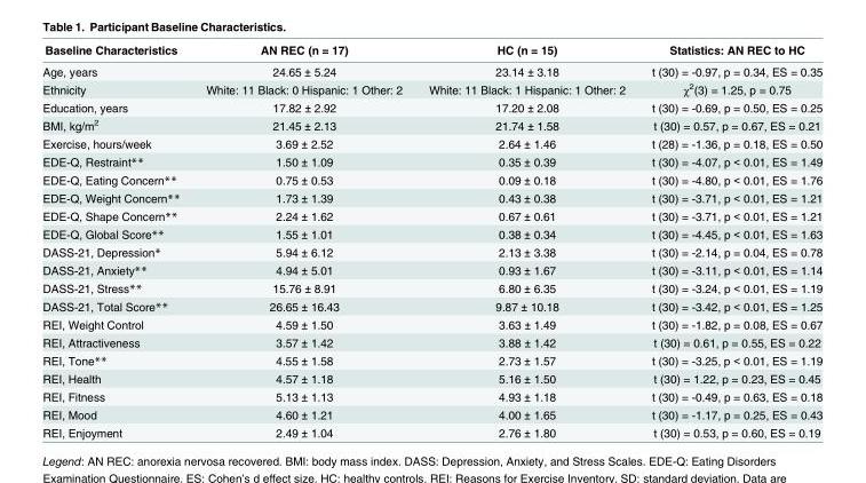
<table><thead><tr><td>Baseline Characteristics</td><td>AN REC (n = 17)</td><td>HC (n = 15)</td><td>Statistics: AN REC to HC</td></tr></thead><tbody><tr><td>Age, years</td><td>24.65 ± 5.24</td><td>23.14 ± 3.18</td><td>t (30) = -0.97, p = 0.34, ES = 0.35</td></tr><tr><td>Ethnicity</td><td>White: 11 Black: 0 Hispanic: 1 Other: 2</td><td>White: 11 Black: 1 Hispanic: 1 Other: 2</td><td>χ<sup>2</sup>(3) = 1.25, p = 0.75</td></tr><tr><td>Education, years</td><td>17.82 ± 2.92</td><td>17.20 ± 2.08</td><td>t (30) = -0.69, p = 0.50, ES = 0.25</td></tr><tr><td>BMI, kg/m<sup>2</sup></td><td>21.45 ± 2.13</td><td>21.74 ± 1.58</td><td>t (30) = 0.57, p = 0.67, ES = 0.21</td></tr><tr><td>Exercise, hours/week</td><td>3.69 ± 2.52</td><td>2.64 ± 1.46</td><td>t (28) = -1.36, p = 0.18, ES = 0.50</td></tr><tr><td>EDE-Q, Restraint**</td><td>1.50 ± 1.09</td><td>0.35 ± 0.39</td><td>t (30) = -4.07, p &lt; 0.01, ES = 1.49</td></tr><tr><td>EDE-Q, Eating Concern**</td><td>0.75 ± 0.53</td><td>0.09 ± 0.18</td><td>t (30) = -4.80, p &lt; 0.01, ES = 1.76</td></tr><tr><td>EDE-Q, Weight Concern**</td><td>1.73 ± 1.39</td><td>0.43 ± 0.38</td><td>t (30) = -3.71, p &lt; 0.01, ES = 1.21</td></tr><tr><td>EDE-Q, Shape Concern**</td><td>2.24 ± 1.62</td><td>0.67 ± 0.61</td><td>t (30) = -3.71, p &lt; 0.01, ES = 1.21</td></tr><tr><td>EDE-Q, Global Score**</td><td>1.55 ± 1.01</td><td>0.38 ± 0.34</td><td>t (30) = -4.45, p &lt; 0.01, ES = 1.63</td></tr><tr><td>DASS-21, Depression*</td><td>5.94 ± 6.12</td><td>2.13 ± 3.38</td><td>t (30) = -2.14, p = 0.04, ES = 0.78</td></tr><tr><td>DASS-21, Anxiety**</td><td>4.94 ± 5.01</td><td>0.93 ± 1.67</td><td>t (30) = -3.11, p &lt; 0.01, ES = 1.14</td></tr><tr><td>DASS-21, Stress**</td><td>15.76 ± 8.91</td><td>6.80 ± 6.35</td><td>t (30) = -3.24, p &lt; 0.01, ES = 1.19</td></tr><tr><td>DASS-21, Total Score**</td><td>26.65 ± 16.43</td><td>9.87 ± 10.18</td><td>t (30) = -3.42, p &lt; 0.01, ES = 1.25</td></tr><tr><td>REI, Weight Control</td><td>4.59 ± 1.50</td><td>3.63 ± 1.49</td><td>t (30) = -1.82, p = 0.08, ES = 0.67</td></tr><tr><td>REI, Attractiveness</td><td>3.57 ± 1.42</td><td>3.88 ± 1.42</td><td>t (30) = 0.61, p = 0.55, ES = 0.22</td></tr><tr><td>REI, Tone**</td><td>4.55 ± 1.58</td><td>2.73 ± 1.57</td><td>t (30) = -3.25, p &lt; 0.01, ES = 1.19</td></tr><tr><td>REI, Health</td><td>4.57 ± 1.18</td><td>5.16 ± 1.50</td><td>t (30) = 1.22, p = 0.23, ES = 0.45</td></tr><tr><td>REI, Fitness</td><td>5.13 ± 1.13</td><td>4.93 ± 1.18</td><td>t (30) = -0.49, p = 0.63, ES = 0.18</td></tr><tr><td>REI, Mood</td><td>4.60 ± 1.21</td><td>4.00 ± 1.65</td><td>t (30) = -1.17, p = 0.25, ES = 0.43</td></tr><tr><td>REI, Enjoyment</td><td>2.49 ± 1.04</td><td>2.76 ± 1.80</td><td>t (30) = 0.53, p = 0.60, ES = 0.19</td></tr></tbody></table>